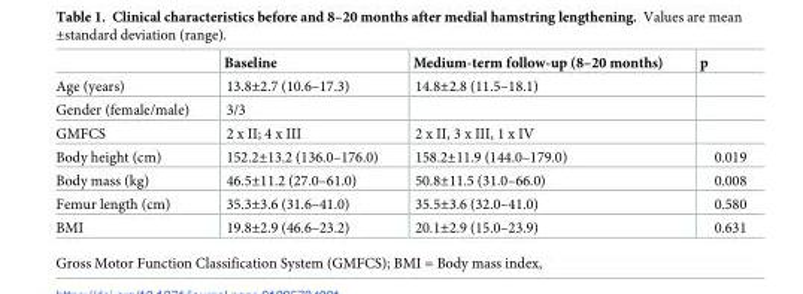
<table><thead><tr><td></td><td>Baseline</td><td>Medium-term follow-up (8–20 months)</td><td>p</td></tr></thead><tbody><tr><td>Age (years)</td><td>13.8±2.7 (10.6–17.3)</td><td>14.8±2.8 (11.5–18.1)</td><td></td></tr><tr><td>Gender (female/male)</td><td>3/3</td><td></td><td></td></tr><tr><td>GMFCS</td><td>2 x II; 4 x III</td><td>2 x II, 3 x III, 1 x IV</td><td></td></tr><tr><td>Body height (cm)</td><td>152.2±13.2 (136.0–176.0)</td><td>158.2±11.9 (144.0–179.0)</td><td>0.019</td></tr><tr><td>Body mass (kg)</td><td>46.5±11.2 (27.0–61.0)</td><td>50.8±11.5 (31.0–66.0)</td><td>0.008</td></tr><tr><td>Femur length (cm)</td><td>35.3±3.6 (31.6–41.0)</td><td>35.5±3.6 (32.0–41.0)</td><td>0.580</td></tr><tr><td>BMI</td><td>19.8±2.9 (46.6–23.2)</td><td>20.1±2.9 (15.0–23.9)</td><td>0.631</td></tr></tbody></table>